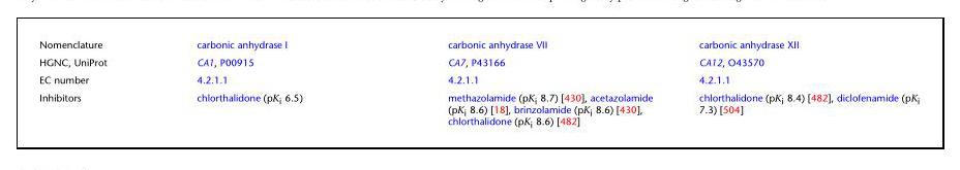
<table><tbody><tr><td>Nomenclature</td><td>carbonic anhydrase I</td><td>carbonic anhydrase VII</td><td>carbonic anhydrase XII</td></tr><tr><td>HGNC, UniProt</td><td>CA1, P00915</td><td>CA7, P43166</td><td>CA12, O43570</td></tr><tr><td>EC number</td><td>4.2.1.1</td><td>4.2.1.1</td><td>4.2.1.1</td></tr><tr><td>Inhibitors</td><td>chlorthalidone (pK<sub>i</sub> 6.5)</td><td>methazolamide (pK<sub>i</sub> 8.7) [430], acetazolamide (pK<sub>i</sub> 8.6) [18], brinzolamide (pK<sub>i</sub> 8.6) [430], chlorthalidone (pK<sub>i</sub> 8.6) [482]</td><td>chlorthalidone (pK<sub>i</sub> 8.4) [482], diclofenamide (pK<sub>i</sub> 7.3) [504]</td></tr></tbody></table>